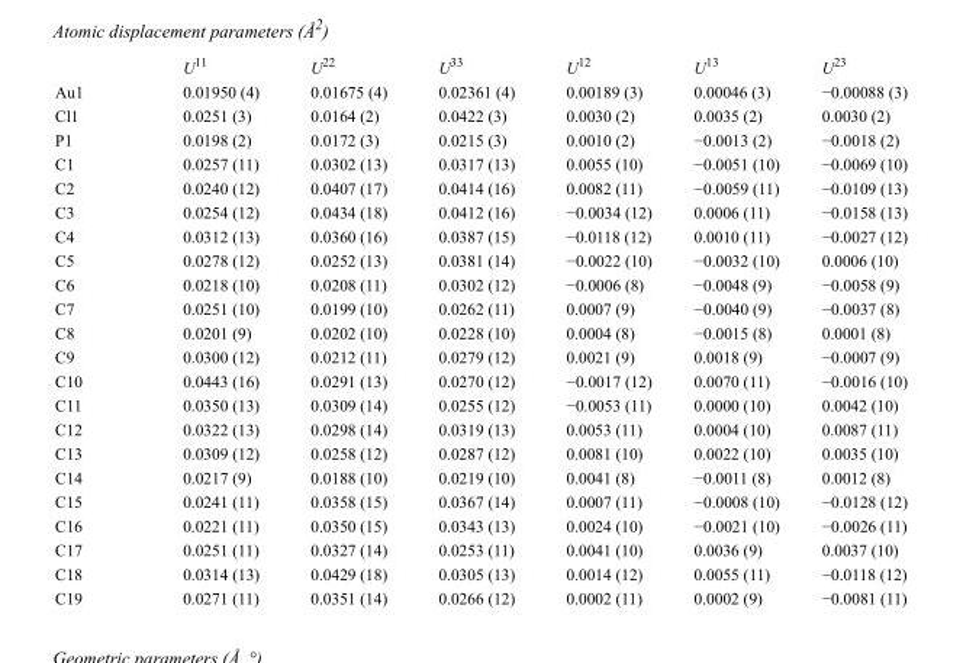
<table><thead><tr><td></td><td>U<sup>11</sup></td><td>U<sup>22</sup></td><td>U<sup>33</sup></td><td>U<sup>12</sup></td><td>U<sup>13</sup></td><td>U<sup>23</sup></td></tr></thead><tbody><tr><td>Au1</td><td>0.01950 (4)</td><td>0.01675 (4)</td><td>0.02361 (4)</td><td>0.00189 (3)</td><td>0.00046 (3)</td><td>−0.00088 (3)</td></tr><tr><td>Cl1</td><td>0.0251 (3)</td><td>0.0164 (2)</td><td>0.0422 (3)</td><td>0.0030 (2)</td><td>0.0035 (2)</td><td>0.0030 (2)</td></tr><tr><td>P1</td><td>0.0198 (2)</td><td>0.0172 (3)</td><td>0.0215 (3)</td><td>0.0010 (2)</td><td>−0.0013 (2)</td><td>−0.0018 (2)</td></tr><tr><td>C1</td><td>0.0257 (11)</td><td>0.0302 (13)</td><td>0.0317 (13)</td><td>0.0055 (10)</td><td>−0.0051 (10)</td><td>−0.0069 (10)</td></tr><tr><td>C2</td><td>0.0240 (12)</td><td>0.0407 (17)</td><td>0.0414 (16)</td><td>0.0082 (11)</td><td>−0.0059 (11)</td><td>−0.0109 (13)</td></tr><tr><td>C3</td><td>0.0254 (12)</td><td>0.0434 (18)</td><td>0.0412 (16)</td><td>−0.0034 (12)</td><td>0.0006 (11)</td><td>−0.0158 (13)</td></tr><tr><td>C4</td><td>0.0312 (13)</td><td>0.0360 (16)</td><td>0.0387 (15)</td><td>−0.0118 (12)</td><td>0.0010 (11)</td><td>−0.0027 (12)</td></tr><tr><td>C5</td><td>0.0278 (12)</td><td>0.0252 (13)</td><td>0.0381 (14)</td><td>−0.0022 (10)</td><td>−0.0032 (10)</td><td>0.0006 (10)</td></tr><tr><td>C6</td><td>0.0218 (10)</td><td>0.0208 (11)</td><td>0.0302 (12)</td><td>−0.0006 (8)</td><td>−0.0048 (9)</td><td>−0.0058 (9)</td></tr><tr><td>C7</td><td>0.0251 (10)</td><td>0.0199 (10)</td><td>0.0262 (11)</td><td>0.0007 (9)</td><td>−0.0040 (9)</td><td>−0.0037 (8)</td></tr><tr><td>C8</td><td>0.0201 (9)</td><td>0.0202 (10)</td><td>0.0228 (10)</td><td>0.0004 (8)</td><td>−0.0015 (8)</td><td>0.0001 (8)</td></tr><tr><td>C9</td><td>0.0300 (12)</td><td>0.0212 (11)</td><td>0.0279 (12)</td><td>0.0021 (9)</td><td>0.0018 (9)</td><td>−0.0007 (9)</td></tr><tr><td>C10</td><td>0.0443 (16)</td><td>0.0291 (13)</td><td>0.0270 (12)</td><td>−0.0017 (12)</td><td>0.0070 (11)</td><td>−0.0016 (10)</td></tr><tr><td>C11</td><td>0.0350 (13)</td><td>0.0309 (14)</td><td>0.0255 (12)</td><td>−0.0053 (11)</td><td>0.0000 (10)</td><td>0.0042 (10)</td></tr><tr><td>C12</td><td>0.0322 (13)</td><td>0.0298 (14)</td><td>0.0319 (13)</td><td>0.0053 (11)</td><td>0.0004 (10)</td><td>0.0087 (11)</td></tr><tr><td>C13</td><td>0.0309 (12)</td><td>0.0258 (12)</td><td>0.0287 (12)</td><td>0.0081 (10)</td><td>0.0022 (10)</td><td>0.0035 (10)</td></tr><tr><td>C14</td><td>0.0217 (9)</td><td>0.0188 (10)</td><td>0.0219 (10)</td><td>0.0041 (8)</td><td>−0.0011 (8)</td><td>0.0012 (8)</td></tr><tr><td>C15</td><td>0.0241 (11)</td><td>0.0358 (15)</td><td>0.0367 (14)</td><td>0.0007 (11)</td><td>−0.0008 (10)</td><td>−0.0128 (12)</td></tr><tr><td>C16</td><td>0.0221 (11)</td><td>0.0350 (15)</td><td>0.0343 (13)</td><td>0.0024 (10)</td><td>−0.0021 (10)</td><td>−0.0026 (11)</td></tr><tr><td>C17</td><td>0.0251 (11)</td><td>0.0327 (14)</td><td>0.0253 (11)</td><td>0.0041 (10)</td><td>0.0036 (9)</td><td>0.0037 (10)</td></tr><tr><td>C18</td><td>0.0314 (13)</td><td>0.0429 (18)</td><td>0.0305 (13)</td><td>0.0014 (12)</td><td>0.0055 (11)</td><td>−0.0118 (12)</td></tr><tr><td>C19</td><td>0.0271 (11)</td><td>0.0351 (14)</td><td>0.0266 (12)</td><td>0.0002 (11)</td><td>0.0002 (9)</td><td>−0.0081 (11)</td></tr></tbody></table>